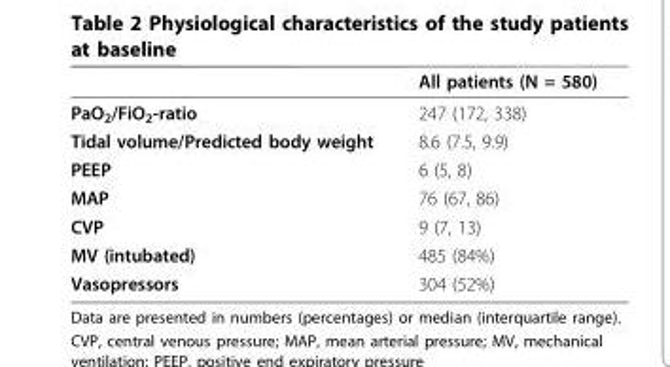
<table><thead><tr><td></td><td>All patients (N = 580)</td></tr></thead><tbody><tr><td>PaO<sub>2</sub>/FiO<sub>2</sub>-ratio</td><td>247 (172, 338)</td></tr><tr><td>Tidal volume/Predicted body weight</td><td>8.6 (7.5, 9.9)</td></tr><tr><td>PEEP</td><td>6 (5, 8)</td></tr><tr><td>MAP</td><td>76 (67, 86)</td></tr><tr><td>CVP</td><td>9 (7, 13)</td></tr><tr><td>MV (intubated)</td><td>485 (84%)</td></tr><tr><td>Vasopressors</td><td>304 (52%)</td></tr></tbody></table>